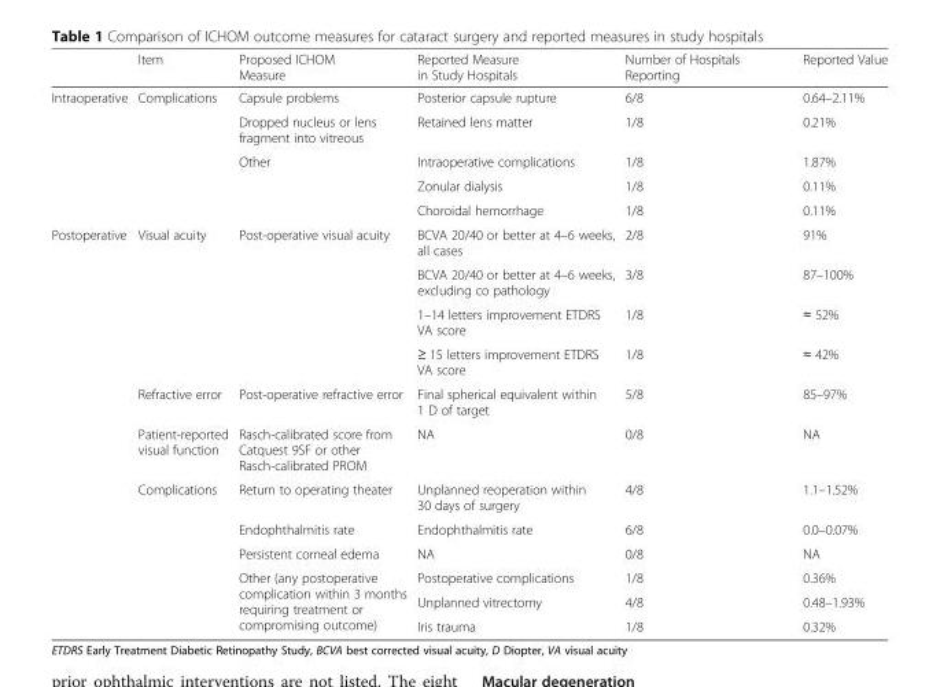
<table><thead><tr><td></td><td>Item</td><td>Proposed ICHOM Measure</td><td>Reported Measure in Study Hospitals</td><td>Number of Hospitals Reporting</td><td>Reported Value</td></tr></thead><tbody><tr><td rowspan="5">Intraoperative</td><td rowspan="5">Complications</td><td>Capsule problems</td><td>Posterior capsule rupture</td><td>6/8</td><td>0.64–2.11%</td></tr><tr><td>Dropped nucleus or lens fragment into vitreous</td><td>Retained lens matter</td><td>1/8</td><td>0.21%</td></tr><tr><td rowspan="3">Other</td><td>Intraoperative complications</td><td>1/8</td><td>1.87%</td></tr><tr><td>Zonular dialysis</td><td>1/8</td><td>0.11%</td></tr><tr><td>Choroidal hemorrhage</td><td>1/8</td><td>0.11%</td></tr><tr><td rowspan="12">Postoperative</td><td rowspan="4">Visual acuity</td><td rowspan="4">Post-operative visual acuity</td><td>BCVA 20/40 or better at 4–6 weeks, all cases</td><td>2/8</td><td>91%</td></tr><tr><td>BCVA 20/40 or better at 4–6 weeks, excluding co pathology</td><td>3/8</td><td>87–100%</td></tr><tr><td>1–14 letters improvement ETDRS VA score</td><td>1/8</td><td>≈ 52%</td></tr><tr><td>≥ 15 letters improvement ETDRS VA score</td><td>1/8</td><td>≈ 42%</td></tr><tr><td>Refractive error</td><td>Post-operative refractive error</td><td>Final spherical equivalent within 1 D of target</td><td>5/8</td><td>85–97%</td></tr><tr><td>Patient-reported visual function</td><td>Rasch-calibrated score from Catquest 9SF or other Rasch-calibrated PROM</td><td>NA</td><td>0/8</td><td>NA</td></tr><tr><td rowspan="6">Complications</td><td>Return to operating theater</td><td>Unplanned reoperation within 30 days of surgery</td><td>4/8</td><td>1.1–1.52%</td></tr><tr><td>Endophthalmitis rate</td><td>Endophthalmitis rate</td><td>6/8</td><td>0.0–0.07%</td></tr><tr><td>Persistent corneal edema</td><td>NA</td><td>0/8</td><td>NA</td></tr><tr><td rowspan="3">Other (any postoperative complication within 3 months requiring treatment or compromising outcome)</td><td>Postoperative complications</td><td>1/8</td><td>0.36%</td></tr><tr><td>Unplanned vitrectomy</td><td>4/8</td><td>0.48–1.93%</td></tr><tr><td>Iris trauma</td><td>1/8</td><td>0.32%</td></tr></tbody></table>